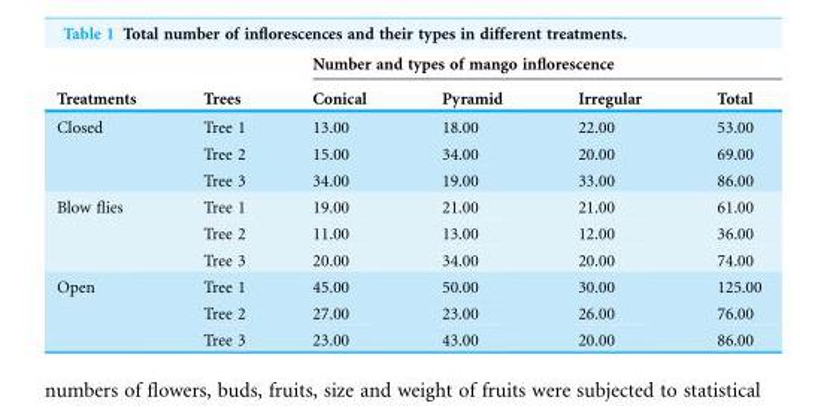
<table><thead><tr><td rowspan="2">Treatments</td><td rowspan="2">Trees</td><td colspan="4">Number and types of mango inflorescence</td></tr><tr><td>Conical</td><td>Pyramid</td><td>Irregular</td><td>Total</td></tr></thead><tbody><tr><td rowspan="3">Closed</td><td>Tree 1</td><td>13.00</td><td>18.00</td><td>22.00</td><td>53.00</td></tr><tr><td>Tree 2</td><td>15.00</td><td>34.00</td><td>20.00</td><td>69.00</td></tr><tr><td>Tree 3</td><td>34.00</td><td>19.00</td><td>33.00</td><td>86.00</td></tr><tr><td rowspan="3">Blow flies</td><td>Tree 1</td><td>19.00</td><td>21.00</td><td>21.00</td><td>61.00</td></tr><tr><td>Tree 2</td><td>11.00</td><td>13.00</td><td>12.00</td><td>36.00</td></tr><tr><td>Tree 3</td><td>20.00</td><td>34.00</td><td>20.00</td><td>74.00</td></tr><tr><td rowspan="3">Open</td><td>Tree 1</td><td>45.00</td><td>50.00</td><td>30.00</td><td>125.00</td></tr><tr><td>Tree 2</td><td>27.00</td><td>23.00</td><td>26.00</td><td>76.00</td></tr><tr><td>Tree 3</td><td>23.00</td><td>43.00</td><td>20.00</td><td>86.00</td></tr></tbody></table>